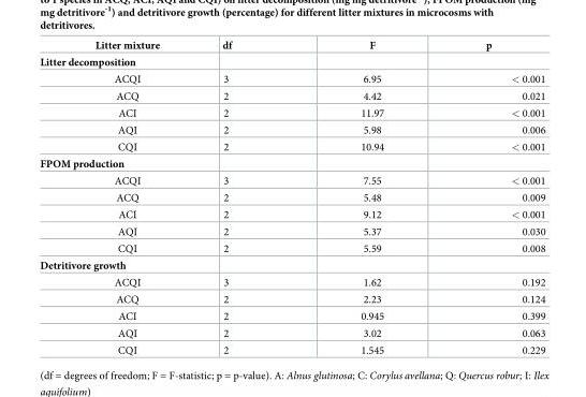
<table><thead><tr><td>Litter mixture</td><td>df</td><td>F</td><td>p</td></tr></thead><tbody><tr><td colspan="4">Litter decomposition</td></tr><tr><td>ACQI</td><td>3</td><td>6.95</td><td>&lt; 0.001</td></tr><tr><td>ACQ</td><td>2</td><td>4.42</td><td>0.021</td></tr><tr><td>ACI</td><td>2</td><td>11.97</td><td>&lt; 0.001</td></tr><tr><td>AQI</td><td>2</td><td>5.98</td><td>0.006</td></tr><tr><td>CQI</td><td>2</td><td>10.94</td><td>&lt; 0.001</td></tr><tr><td colspan="4">FPOM production</td></tr><tr><td>ACQI</td><td>3</td><td>7.55</td><td>&lt; 0.001</td></tr><tr><td>ACQ</td><td>2</td><td>5.48</td><td>0.009</td></tr><tr><td>ACI</td><td>2</td><td>9.12</td><td>&lt; 0.001</td></tr><tr><td>AQI</td><td>2</td><td>5.37</td><td>0.030</td></tr><tr><td>CQI</td><td>2</td><td>5.59</td><td>0.008</td></tr><tr><td colspan="4">Detritivore growth</td></tr><tr><td>ACQI</td><td>3</td><td>1.62</td><td>0.192</td></tr><tr><td>ACQ</td><td>2</td><td>2.23</td><td>0.124</td></tr><tr><td>ACI</td><td>2</td><td>0.945</td><td>0.399</td></tr><tr><td>AQI</td><td>2</td><td>3.02</td><td>0.063</td></tr><tr><td>CQI</td><td>2</td><td>1.545</td><td>0.229</td></tr></tbody></table>